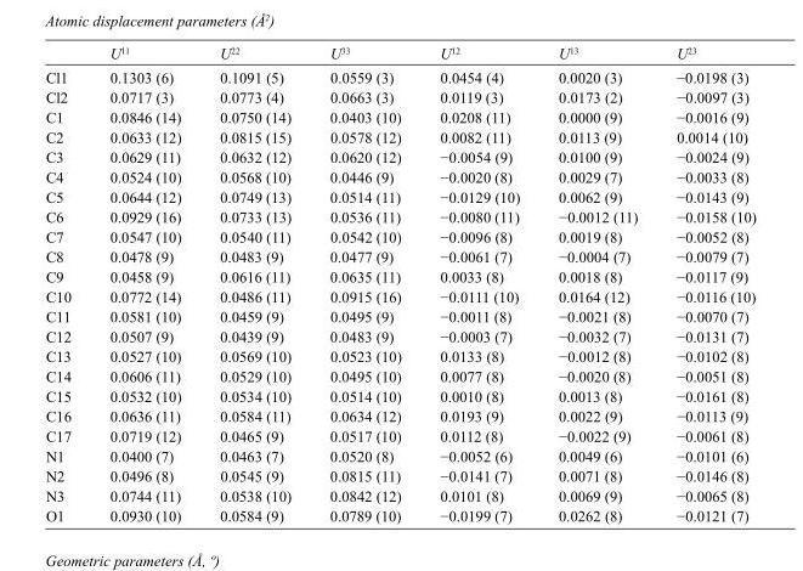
<table><thead><tr><td></td><td>U<sup>11</sup></td><td>U<sup>22</sup></td><td>U<sup>33</sup></td><td>U<sup>12</sup></td><td>U<sup>13</sup></td><td>U<sup>23</sup></td></tr></thead><tbody><tr><td>Cl1</td><td>0.1303 (6)</td><td>0.1091 (5)</td><td>0.0559 (3)</td><td>0.0454 (4)</td><td>0.0020 (3)</td><td>−0.0198 (3)</td></tr><tr><td>Cl2</td><td>0.0717 (3)</td><td>0.0773 (4)</td><td>0.0663 (3)</td><td>0.0119 (3)</td><td>0.0173 (2)</td><td>−0.0097 (3)</td></tr><tr><td>C1</td><td>0.0846 (14)</td><td>0.0750 (14)</td><td>0.0403 (10)</td><td>0.0208 (11)</td><td>0.0000 (9)</td><td>−0.0016 (9)</td></tr><tr><td>C2</td><td>0.0633 (12)</td><td>0.0815 (15)</td><td>0.0578 (12)</td><td>0.0082 (11)</td><td>0.0113 (9)</td><td>0.0014 (10)</td></tr><tr><td>C3</td><td>0.0629 (11)</td><td>0.0632 (12)</td><td>0.0620 (12)</td><td>−0.0054 (9)</td><td>0.0100 (9)</td><td>−0.0024 (9)</td></tr><tr><td>C4</td><td>0.0524 (10)</td><td>0.0568 (10)</td><td>0.0446 (9)</td><td>−0.0020 (8)</td><td>0.0029 (7)</td><td>−0.0033 (8)</td></tr><tr><td>C5</td><td>0.0644 (12)</td><td>0.0749 (13)</td><td>0.0514 (11)</td><td>−0.0129 (10)</td><td>0.0062 (9)</td><td>−0.0143 (9)</td></tr><tr><td>C6</td><td>0.0929 (16)</td><td>0.0733 (13)</td><td>0.0536 (11)</td><td>−0.0080 (11)</td><td>−0.0012 (11)</td><td>−0.0158 (10)</td></tr><tr><td>C7</td><td>0.0547 (10)</td><td>0.0540 (11)</td><td>0.0542 (10)</td><td>−0.0096 (8)</td><td>0.0019 (8)</td><td>−0.0052 (8)</td></tr><tr><td>C8</td><td>0.0478 (9)</td><td>0.0483 (9)</td><td>0.0477 (9)</td><td>−0.0061 (7)</td><td>−0.0004 (7)</td><td>−0.0079 (7)</td></tr><tr><td>C9</td><td>0.0458 (9)</td><td>0.0616 (11)</td><td>0.0635 (11)</td><td>0.0033 (8)</td><td>0.0018 (8)</td><td>−0.0117 (9)</td></tr><tr><td>C10</td><td>0.0772 (14)</td><td>0.0486 (11)</td><td>0.0915 (16)</td><td>−0.0111 (10)</td><td>0.0164 (12)</td><td>−0.0116 (10)</td></tr><tr><td>C11</td><td>0.0581 (10)</td><td>0.0459 (9)</td><td>0.0495 (9)</td><td>−0.0011 (8)</td><td>−0.0021 (8)</td><td>−0.0070 (7)</td></tr><tr><td>C12</td><td>0.0507 (9)</td><td>0.0439 (9)</td><td>0.0483 (9)</td><td>−0.0003 (7)</td><td>−0.0032 (7)</td><td>−0.0131 (7)</td></tr><tr><td>C13</td><td>0.0527 (10)</td><td>0.0569 (10)</td><td>0.0523 (10)</td><td>0.0133 (8)</td><td>−0.0012 (8)</td><td>−0.0102 (8)</td></tr><tr><td>C14</td><td>0.0606 (11)</td><td>0.0529 (10)</td><td>0.0495 (10)</td><td>0.0077 (8)</td><td>−0.0020 (8)</td><td>−0.0051 (8)</td></tr><tr><td>C15</td><td>0.0532 (10)</td><td>0.0534 (10)</td><td>0.0514 (10)</td><td>0.0010 (8)</td><td>0.0013 (8)</td><td>−0.0161 (8)</td></tr><tr><td>C16</td><td>0.0636 (11)</td><td>0.0584 (11)</td><td>0.0634 (12)</td><td>0.0193 (9)</td><td>0.0022 (9)</td><td>−0.0113 (9)</td></tr><tr><td>C17</td><td>0.0719 (12)</td><td>0.0465 (9)</td><td>0.0517 (10)</td><td>0.0112 (8)</td><td>−0.0022 (9)</td><td>−0.0061 (8)</td></tr><tr><td>N1</td><td>0.0400 (7)</td><td>0.0463 (7)</td><td>0.0520 (8)</td><td>−0.0052 (6)</td><td>0.0049 (6)</td><td>−0.0101 (6)</td></tr><tr><td>N2</td><td>0.0496 (8)</td><td>0.0545 (9)</td><td>0.0815 (11)</td><td>−0.0141 (7)</td><td>0.0071 (8)</td><td>−0.0146 (8)</td></tr><tr><td>N3</td><td>0.0744 (11)</td><td>0.0538 (10)</td><td>0.0842 (12)</td><td>0.0101 (8)</td><td>0.0069 (9)</td><td>−0.0065 (8)</td></tr><tr><td>O1</td><td>0.0930 (10)</td><td>0.0584 (9)</td><td>0.0789 (10)</td><td>−0.0199 (7)</td><td>0.0262 (8)</td><td>−0.0121 (7)</td></tr></tbody></table>